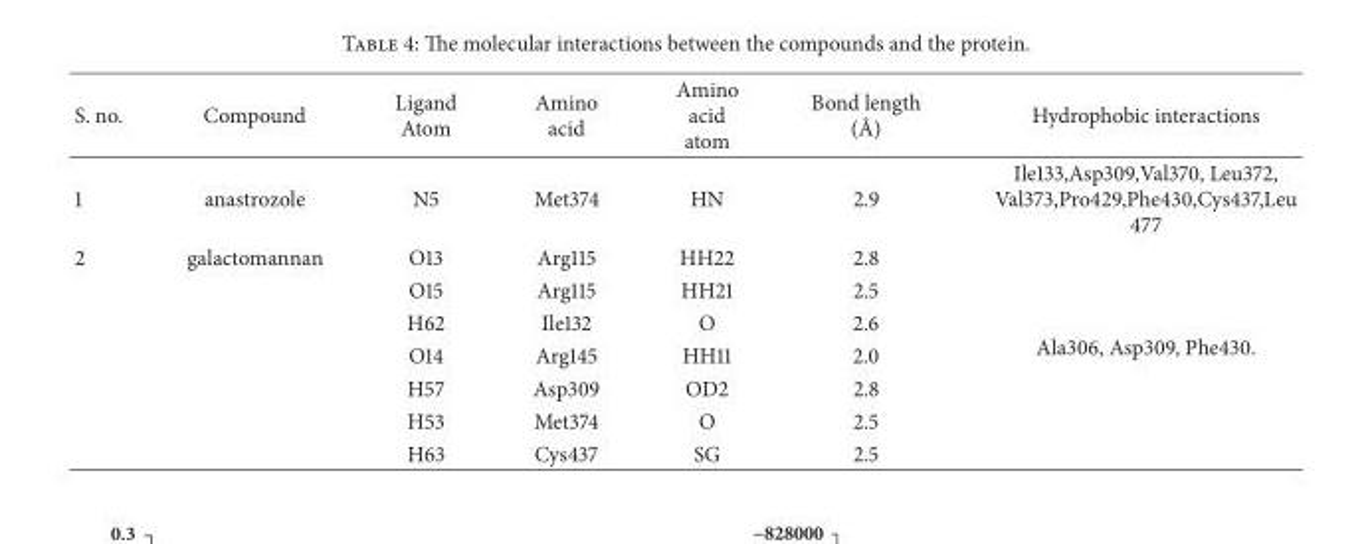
<table><thead><tr><td>S. no.</td><td>Compound</td><td>Ligand Atom</td><td>Amino acid</td><td>Amino acid atom</td><td>Bond length (˚A)</td><td>Hydrophobic interactions</td></tr></thead><tbody><tr><td>1</td><td>anastrozole</td><td>N5</td><td>Met374</td><td>HN</td><td>2.9</td><td>Ile133,Asp309,Val370, Leu372, Val373,Pro429,Phe430,Cys437,Leu 477</td></tr><tr><td rowspan="7">2</td><td>galactomannan</td><td>O13</td><td>Arg115</td><td>HH22</td><td>2.8</td><td rowspan="7">Ala306, Asp309, Phe430.</td></tr><tr><td></td><td>O15</td><td>Arg115</td><td>HH21</td><td>2.5</td></tr><tr><td></td><td>H62</td><td>Ile132</td><td>O</td><td>2.6</td></tr><tr><td></td><td>O14</td><td>Arg145</td><td>HH11</td><td>2.0</td></tr><tr><td></td><td>H57</td><td>Asp309</td><td>OD2</td><td>2.8</td></tr><tr><td></td><td>H53</td><td>Met374</td><td>O</td><td>2.5</td></tr><tr><td></td><td>H63</td><td>Cys437</td><td>SG</td><td>2.5</td></tr></tbody></table>